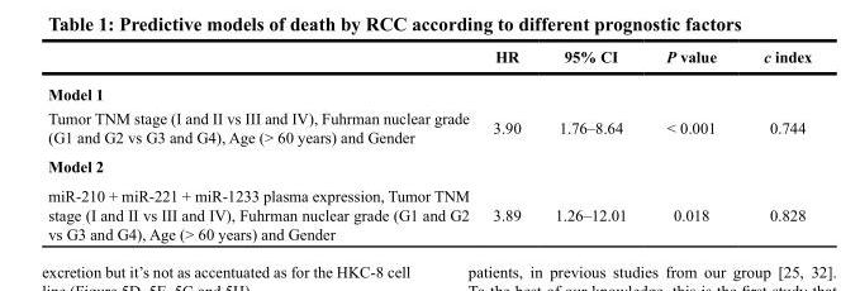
<table><thead><tr><td></td><td>HR</td><td>95% CI</td><td>P value</td><td>c index</td></tr></thead><tbody><tr><td colspan="5">Model 1</td></tr><tr><td>Tumor TNM stage (I and II vs III and IV), Fuhrman nuclear grade (G1 and G2 vs G3 and G4), Age (&gt; 60 years) and Gender</td><td>3.90</td><td>1.76–8.64</td><td>&lt; 0.001</td><td>0.744</td></tr><tr><td colspan="5">Model 2</td></tr><tr><td>miR-210 + miR-221 + miR-1233 plasma expression, Tumor TNM stage (I and II vs III and IV), Fuhrman nuclear grade (G1 and G2 vs G3 and G4), Age (&gt; 60 years) and Gender</td><td>3.89</td><td>1.26–12.01</td><td>0.018</td><td>0.828</td></tr></tbody></table>